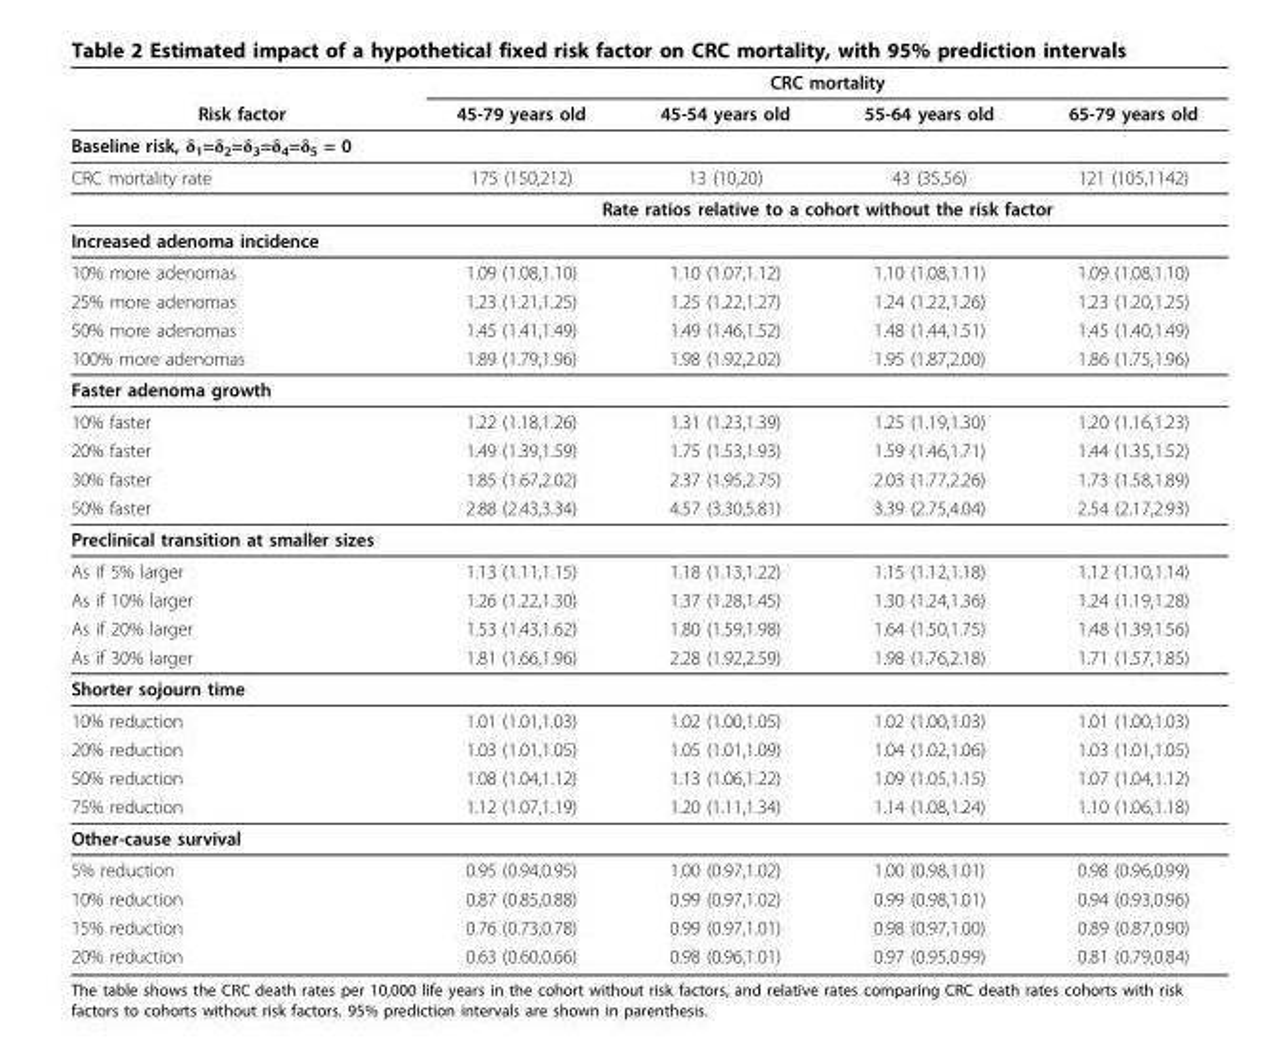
<table><thead><tr><td rowspan="2">Risk factor</td><td colspan="4">CRC mortality</td></tr><tr><td>45-79 years old</td><td>45-54 years old</td><td>55-64 years old</td><td>65-79 years old</td></tr></thead><tbody><tr><td colspan="5">Baseline risk, δ<sub>1</sub>=δ<sub>2</sub>=δ<sub>3</sub>=δ<sub>4</sub>=δ<sub>5</sub> = 0</td></tr><tr><td rowspan="2">CRC mortality rate</td><td>175 (150,212)</td><td>13 (10,20)</td><td>43 (35,56)</td><td>121 (105,1142)</td></tr><tr><td colspan="4">Rate ratios relative to a cohort without the risk factor</td></tr><tr><td colspan="5">Increased adenoma incidence</td></tr><tr><td>10% more adenomas</td><td>1.09 (1.08,1.10)</td><td>1.10 (1.07,1.12)</td><td>1.10 (1.08,1.11)</td><td>1.09 (1.08,1.10)</td></tr><tr><td>25% more adenomas</td><td>1.23 (1.21,1.25)</td><td>1.25 (1.22,1.27)</td><td>1.24 (1.22,1.26)</td><td>1.23 (1.20,1.25)</td></tr><tr><td>50% more adenomas</td><td>1.45 (1.41,1.49)</td><td>1.49 (1.46,1.52)</td><td>1.48 (1.44,1.51)</td><td>1.45 (1.40,1.49)</td></tr><tr><td>100% more adenomas</td><td>1.89 (1.79,1.96)</td><td>1.98 (1.92,2.02)</td><td>1.95 (1.87,2.00)</td><td>1.86 (1.75,1.96)</td></tr><tr><td colspan="5">Faster adenoma growth</td></tr><tr><td>10% faster</td><td>1.22 (1.18,1.26)</td><td>1.31 (1.23,1.39)</td><td>1.25 (1.19,1.30)</td><td>1.20 (1.16,1.23)</td></tr><tr><td>20% faster</td><td>1.49 (1.39,1.59)</td><td>1.75 (1.53,1.93)</td><td>1.59 (1.46,1.71)</td><td>1.44 (1.35,1.52)</td></tr><tr><td>30% faster</td><td>1.85 (1.67,2.02)</td><td>2.37 (1.95,2.75)</td><td>2.03 (1.77,2.26)</td><td>1.73 (1.58,1.89)</td></tr><tr><td>50% faster</td><td>2.88 (2.43,3.34)</td><td>4.57 (3.30,5.81)</td><td>3.39 (2.75,4.04)</td><td>2.54 (2.17,2.93)</td></tr><tr><td colspan="5">Preclinical transition at smaller sizes</td></tr><tr><td>As if 5% larger</td><td>1.13 (1.11,1.15)</td><td>1.18 (1.13,1.22)</td><td>1.15 (1.12,1.18)</td><td>1.12 (1.10,1.14)</td></tr><tr><td>As if 10% larger</td><td>1.26 (1.22,1.30)</td><td>1.37 (1.28,1.45)</td><td>1.30 (1.24,1.36)</td><td>1.24 (1.19,1.28)</td></tr><tr><td>As if 20% larger</td><td>1.53 (1.43,1.62)</td><td>1.80 (1.59,1.98)</td><td>1.64 (1.50,1.75)</td><td>1.48 (1.39,1.56)</td></tr><tr><td>As if 30% larger</td><td>1.81 (1.66,1.96)</td><td>2.28 (1.92,2.59)</td><td>1.98 (1.76,2.18)</td><td>1.71 (1.57,1.85)</td></tr><tr><td colspan="5">Shorter sojourn time</td></tr><tr><td>10% reduction</td><td>1.01 (1.01,1.03)</td><td>1.02 (1.00,1.05)</td><td>1.02 (1.00,1.03)</td><td>1.01 (1.00,1.03)</td></tr><tr><td>20% reduction</td><td>1.03 (1.01,1.05)</td><td>1.05 (1.01,1.09)</td><td>1.04 (1.02,1.06)</td><td>1.03 (1.01,1.05)</td></tr><tr><td>50% reduction</td><td>1.08 (1.04,1.12)</td><td>1.13 (1.06,1.22)</td><td>1.09 (1.05,1.15)</td><td>1.07 (1.04,1.12)</td></tr><tr><td>75% reduction</td><td>1.12 (1.07,1.19)</td><td>1.20 (1.11,1.34)</td><td>1.14 (1.08,1.24)</td><td>1.10 (1.06,1.18)</td></tr><tr><td colspan="5">Other-cause survival</td></tr><tr><td>5% reduction</td><td>0.95 (0.94,0.95)</td><td>1.00 (0.97,1.02)</td><td>1.00 (0.98,1.01)</td><td>0.98 (0.96,0.99)</td></tr><tr><td>10% reduction</td><td>0.87 (0.85,0.88)</td><td>0.99 (0.97,1.02)</td><td>0.99 (0.98,1.01)</td><td>0.94 (0.93,0.96)</td></tr><tr><td>15% reduction</td><td>0.76 (0.73,0.78)</td><td>0.99 (0.97,1.01)</td><td>0.98 (0.97,1.00)</td><td>0.89 (0.87,0.90)</td></tr><tr><td>20% reduction</td><td>0.63 (0.60,0.66)</td><td>0.98 (0.96,1.01)</td><td>0.97 (0.95,0.99)</td><td>0.81 (0.79,0.84)</td></tr></tbody></table>